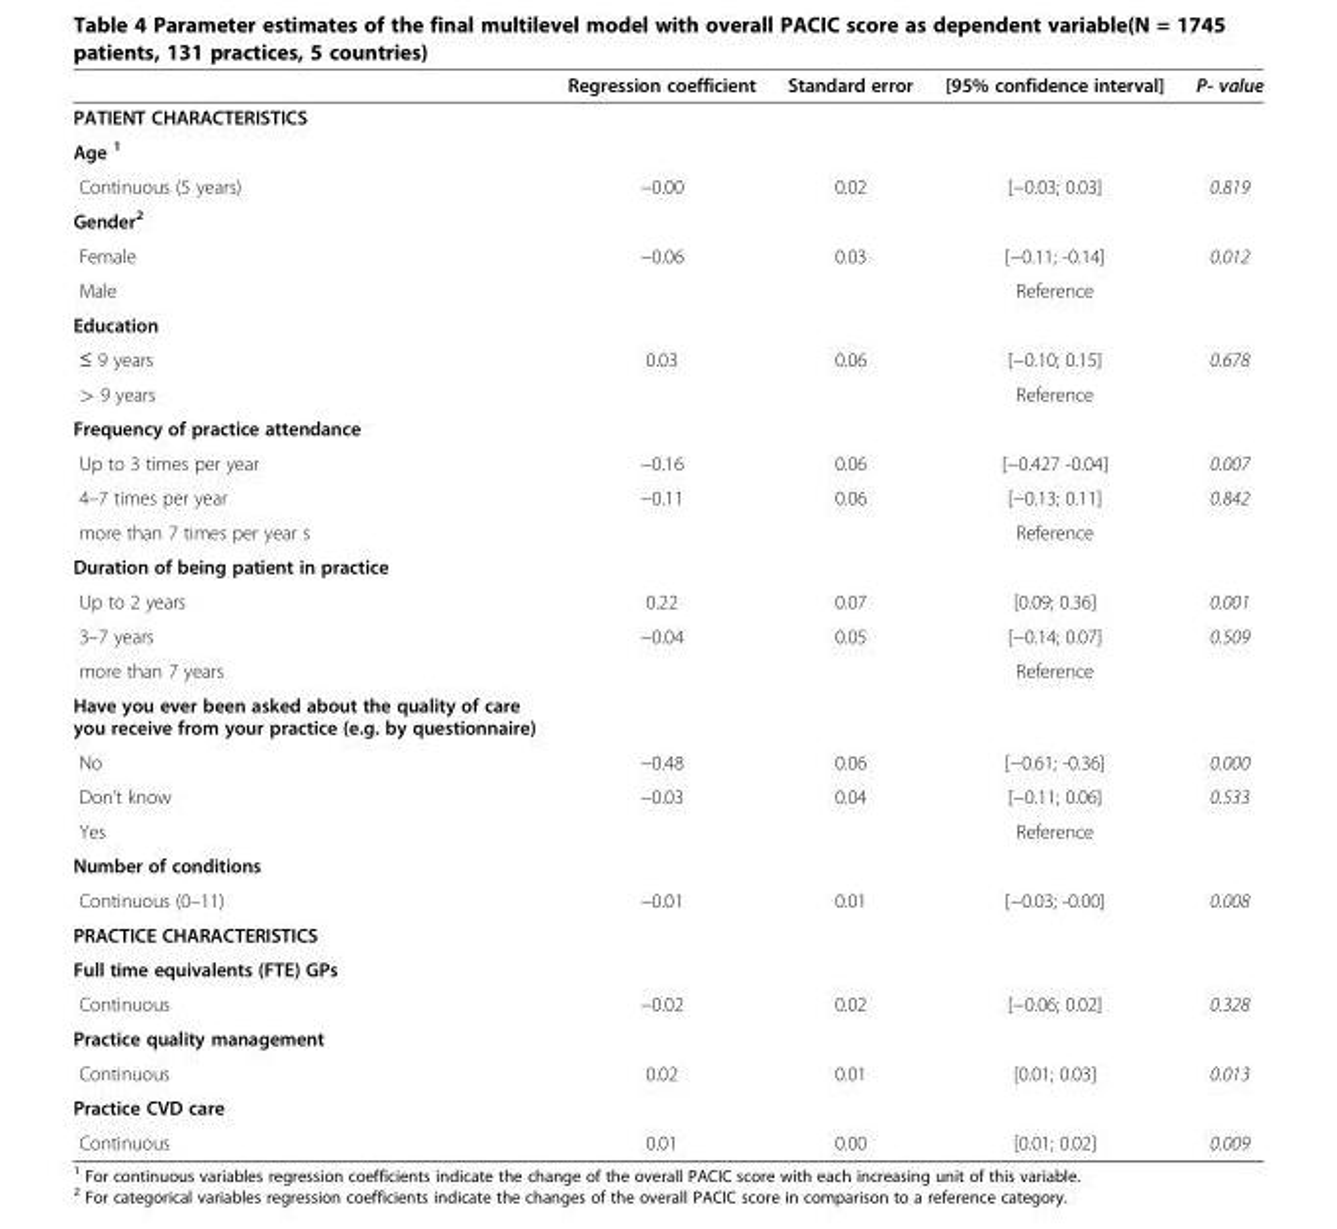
<table><thead><tr><td></td><td>Regression coefficient</td><td>Standard error</td><td>[95% confidence interval]</td><td>P- value</td></tr></thead><tbody><tr><td colspan="5">PATIENT CHARACTERISTICS</td></tr><tr><td colspan="5">Age <sup>1</sup></td></tr><tr><td>Continuous (5 years)</td><td>−0.00</td><td>0.02</td><td>[−0.03; 0.03]</td><td>0.819</td></tr><tr><td colspan="5">Gender<sup>2</sup></td></tr><tr><td>Female</td><td>−0.06</td><td>0.03</td><td>[−0.11; -0.14]</td><td>0.012</td></tr><tr><td>Male</td><td></td><td></td><td>Reference</td><td></td></tr><tr><td colspan="5">Education</td></tr><tr><td>≤ 9 years</td><td>0.03</td><td>0.06</td><td>[−0.10; 0.15]</td><td>0.678</td></tr><tr><td>&gt; 9 years</td><td></td><td></td><td>Reference</td><td></td></tr><tr><td colspan="5">Frequency of practice attendance</td></tr><tr><td>Up to 3 times per year</td><td>−0.16</td><td>0.06</td><td>[−0.427 -0.04]</td><td>0.007</td></tr><tr><td>4–7 times per year</td><td>−0.11</td><td>0.06</td><td>[−0.13; 0.11]</td><td>0.842</td></tr><tr><td>more than 7 times per year s</td><td></td><td></td><td>Reference</td><td></td></tr><tr><td colspan="5">Duration of being patient in practice</td></tr><tr><td>Up to 2 years</td><td>0.22</td><td>0.07</td><td>[0.09; 0.36]</td><td>0.001</td></tr><tr><td>3–7 years</td><td>−0.04</td><td>0.05</td><td>[−0.14; 0.07]</td><td>0.509</td></tr><tr><td>more than 7 years</td><td></td><td></td><td>Reference</td><td></td></tr><tr><td colspan="5">Have you ever been asked about the quality of care you receive from your practice (e.g. by questionnaire)</td></tr><tr><td>No</td><td>−0.48</td><td>0.06</td><td>[−0.61; -0.36]</td><td>0.000</td></tr><tr><td>Don’t know</td><td>−0.03</td><td>0.04</td><td>[−0.11; 0.06]</td><td>0.533</td></tr><tr><td>Yes</td><td></td><td></td><td>Reference</td><td></td></tr><tr><td colspan="5">Number of conditions</td></tr><tr><td>Continuous (0–11)</td><td>−0.01</td><td>0.01</td><td>[−0.03; -0.00]</td><td>0.008</td></tr><tr><td colspan="5">PRACTICE CHARACTERISTICS</td></tr><tr><td colspan="5">Full time equivalents (FTE) GPs</td></tr><tr><td>Continuous</td><td>−0.02</td><td>0.02</td><td>[−0.06; 0.02]</td><td>0.328</td></tr><tr><td colspan="5">Practice quality management</td></tr><tr><td>Continuous</td><td>0.02</td><td>0.01</td><td>[0.01; 0.03]</td><td>0.013</td></tr><tr><td colspan="5">Practice CVD care</td></tr><tr><td>Continuous</td><td>0.01</td><td>0.00</td><td>[0.01; 0.02]</td><td>0.009</td></tr></tbody></table>